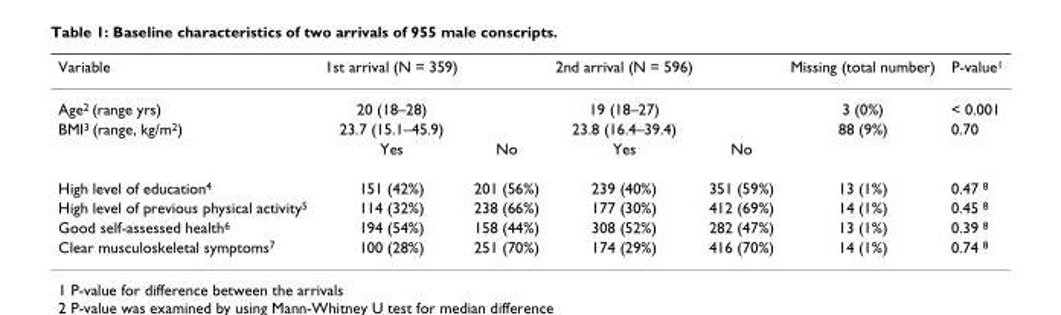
<table><thead><tr><td>Variable</td><td>1st arrival (N = 359)</td><td></td><td>2nd arrival (N = 596)</td><td></td><td>Missing (total number)</td><td>P-value<sup>1</sup></td></tr></thead><tbody><tr><td>Age<sup>2</sup> (range yrs)</td><td>20 (18–28)</td><td></td><td>19 (18–27)</td><td></td><td>3 (0%)</td><td>&lt; 0.001</td></tr><tr><td rowspan="2">BMI<sup>3</sup> (range, kg/m<sup>2</sup>)</td><td>23.7 (15.1–45.9)</td><td></td><td>23.8 (16.4–39.4)</td><td></td><td>88 (9%)</td><td>0.70</td></tr><tr><td>Yes</td><td>No</td><td>Yes</td><td>No</td><td></td><td></td></tr><tr><td>High level of education<sup>4</sup></td><td>151 (42%)</td><td>201 (56%)</td><td>239 (40%)</td><td>351 (59%)</td><td>13 (1%)</td><td>0.47 <sup>8</sup></td></tr><tr><td>High level of previous physical activity<sup>5</sup></td><td>114 (32%)</td><td>238 (66%)</td><td>177 (30%)</td><td>412 (69%)</td><td>14 (1%)</td><td>0.45 <sup>8</sup></td></tr><tr><td>Good self-assessed health<sup>6</sup></td><td>194 (54%)</td><td>158 (44%)</td><td>308 (52%)</td><td>282 (47%)</td><td>13 (1%)</td><td>0.39 <sup>8</sup></td></tr><tr><td>Clear musculoskeletal symptoms<sup>7</sup></td><td>100 (28%)</td><td>251 (70%)</td><td>174 (29%)</td><td>416 (70%)</td><td>14 (1%)</td><td>0.74 <sup>8</sup></td></tr></tbody></table>